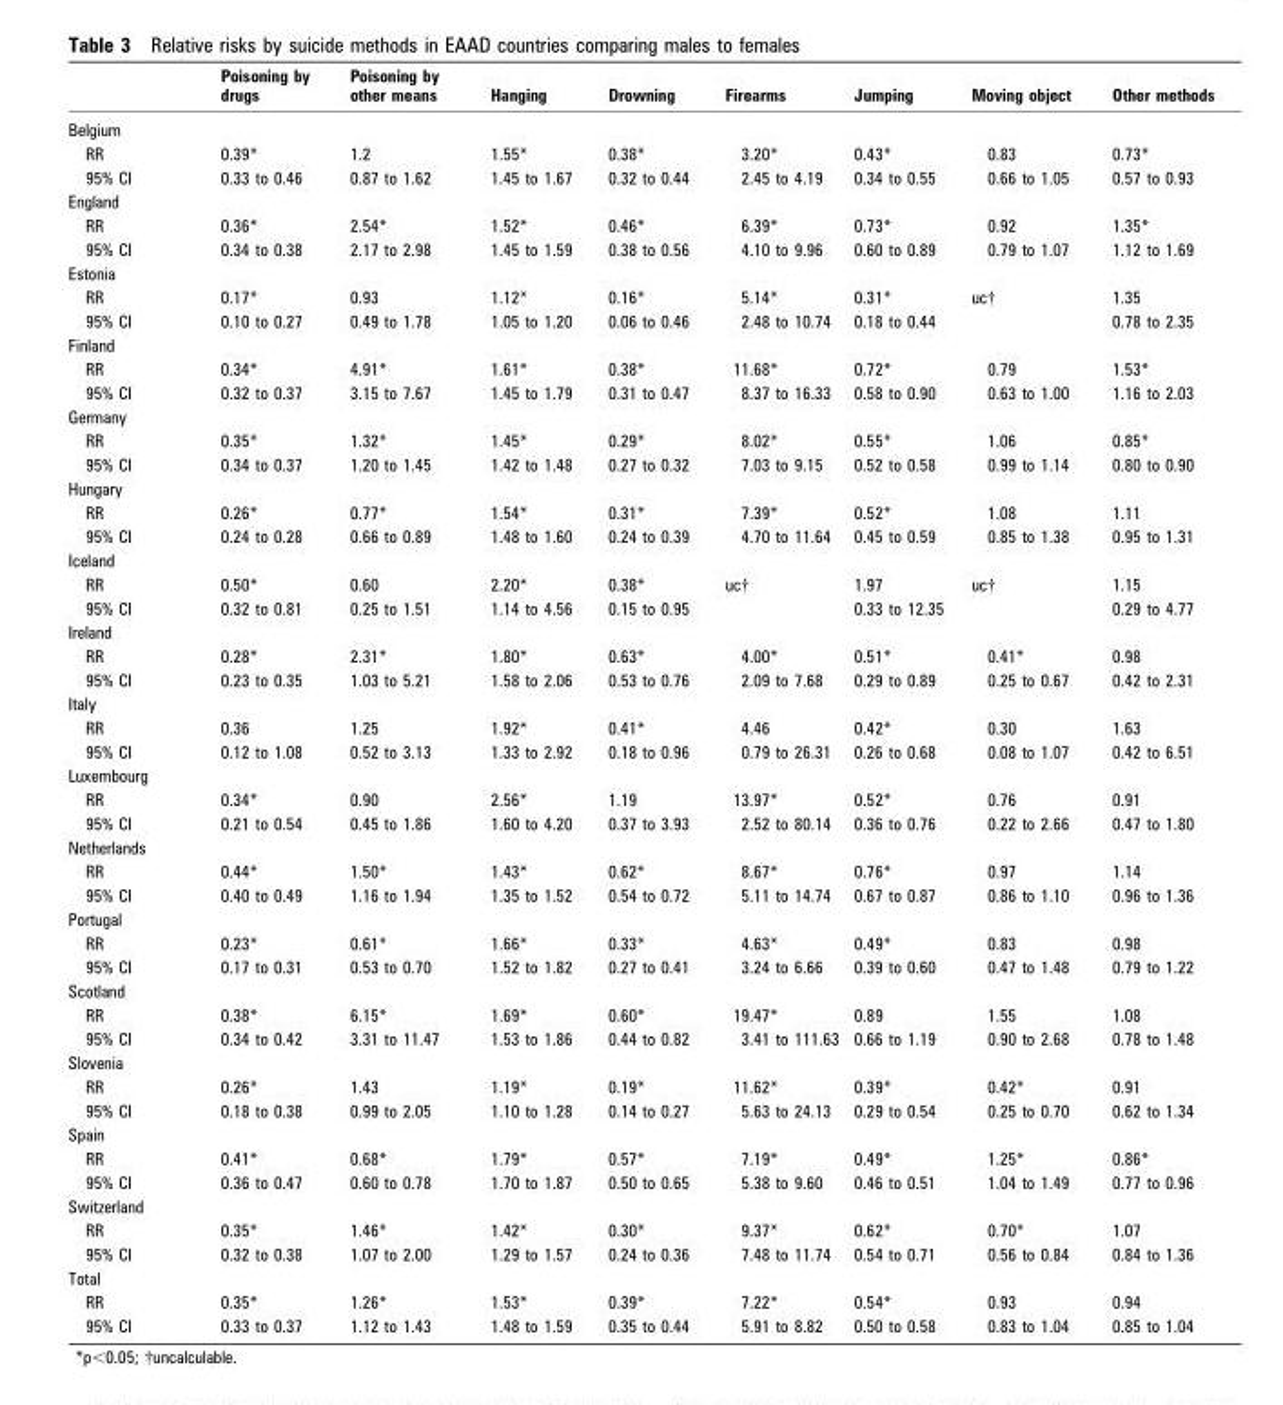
<table><thead><tr><td></td><td>Poisoning by drugs</td><td>Poisoning by other means</td><td>Hanging</td><td>Drowning</td><td>Firearms</td><td>Jumping</td><td>Moving object</td><td>Other methods</td></tr></thead><tbody><tr><td colspan="9">Belgium</td></tr><tr><td>RR</td><td>0.39*</td><td>1.2</td><td>1.55*</td><td>0.38*</td><td>3.20*</td><td>0.43*</td><td>0.83</td><td>0.73*</td></tr><tr><td>95% CI</td><td>0.33 to 0.46</td><td>0.87 to 1.62</td><td>1.45 to 1.67</td><td>0.32 to 0.44</td><td>2.45 to 4.19</td><td>0.34 to 0.55</td><td>0.66 to 1.05</td><td>0.57 to 0.93</td></tr><tr><td colspan="9">England</td></tr><tr><td>RR</td><td>0.36*</td><td>2.54*</td><td>1.52*</td><td>0.46*</td><td>6.39*</td><td>0.73*</td><td>0.92</td><td>1.35*</td></tr><tr><td>95% CI</td><td>0.34 to 0.38</td><td>2.17 to 2.98</td><td>1.45 to 1.59</td><td>0.38 to 0.56</td><td>4.10 to 9.96</td><td>0.60 to 0.89</td><td>0.79 to 1.07</td><td>1.12 to 1.69</td></tr><tr><td colspan="9">Estonia</td></tr><tr><td>RR</td><td>0.17*</td><td>0.93</td><td>1.12*</td><td>0.16*</td><td>5.14*</td><td>0.31*</td><td>uc†</td><td>1.35</td></tr><tr><td>95% CI</td><td>0.10 to 0.27</td><td>0.49 to 1.78</td><td>1.05 to 1.20</td><td>0.06 to 0.46</td><td>2.48 to 10.74</td><td>0.18 to 0.44</td><td></td><td>0.78 to 2.35</td></tr><tr><td colspan="9">Finland</td></tr><tr><td>RR</td><td>0.34*</td><td>4.91*</td><td>1.61*</td><td>0.38*</td><td>11.68*</td><td>0.72*</td><td>0.79</td><td>1.53*</td></tr><tr><td>95% CI</td><td>0.32 to 0.37</td><td>3.15 to 7.67</td><td>1.45 to 1.79</td><td>0.31 to 0.47</td><td>8.37 to 16.33</td><td>0.58 to 0.90</td><td>0.63 to 1.00</td><td>1.16 to 2.03</td></tr><tr><td colspan="9">Germany</td></tr><tr><td>RR</td><td>0.35*</td><td>1.32*</td><td>1.45*</td><td>0.29*</td><td>8.02*</td><td>0.55*</td><td>1.06</td><td>0.85*</td></tr><tr><td>95% CI</td><td>0.34 to 0.37</td><td>1.20 to 1.45</td><td>1.42 to 1.48</td><td>0.27 to 0.32</td><td>7.03 to 9.15</td><td>0.52 to 0.58</td><td>0.99 to 1.14</td><td>0.80 to 0.90</td></tr><tr><td colspan="9">Hungary</td></tr><tr><td>RR</td><td>0.26*</td><td>0.77*</td><td>1.54*</td><td>0.31*</td><td>7.39*</td><td>0.52*</td><td>1.08</td><td>1.11</td></tr><tr><td>95% CI</td><td>0.24 to 0.28</td><td>0.66 to 0.89</td><td>1.48 to 1.60</td><td>0.24 to 0.39</td><td>4.70 to 11.64</td><td>0.45 to 0.59</td><td>0.85 to 1.38</td><td>0.95 to 1.31</td></tr><tr><td colspan="9">Iceland</td></tr><tr><td>RR</td><td>0.50*</td><td>0.60</td><td>2.20*</td><td>0.38*</td><td>uc†</td><td>1.97</td><td>uc†</td><td>1.15</td></tr><tr><td>95% CI</td><td>0.32 to 0.81</td><td>0.25 to 1.51</td><td>1.14 to 4.56</td><td>0.15 to 0.95</td><td></td><td>0.33 to 12.35</td><td></td><td>0.29 to 4.77</td></tr><tr><td colspan="9">Ireland</td></tr><tr><td>RR</td><td>0.28*</td><td>2.31*</td><td>1.80*</td><td>0.63*</td><td>4.00*</td><td>0.51*</td><td>0.41*</td><td>0.98</td></tr><tr><td>95% CI</td><td>0.23 to 0.35</td><td>1.03 to 5.21</td><td>1.58 to 2.06</td><td>0.53 to 0.76</td><td>2.09 to 7.68</td><td>0.29 to 0.89</td><td>0.25 to 0.67</td><td>0.42 to 2.31</td></tr><tr><td colspan="9">Italy</td></tr><tr><td>RR</td><td>0.36</td><td>1.25</td><td>1.92*</td><td>0.41*</td><td>4.46</td><td>0.42*</td><td>0.30</td><td>1.63</td></tr><tr><td>95% CI</td><td>0.12 to 1.08</td><td>0.52 to 3.13</td><td>1.33 to 2.92</td><td>0.18 to 0.96</td><td>0.79 to 26.31</td><td>0.26 to 0.68</td><td>0.08 to 1.07</td><td>0.42 to 6.51</td></tr><tr><td colspan="9">Luxembourg</td></tr><tr><td>RR</td><td>0.34*</td><td>0.90</td><td>2.56*</td><td>1.19</td><td>13.97*</td><td>0.52*</td><td>0.76</td><td>0.91</td></tr><tr><td>95% CI</td><td>0.21 to 0.54</td><td>0.45 to 1.86</td><td>1.60 to 4.20</td><td>0.37 to 3.93</td><td>2.52 to 80.14</td><td>0.36 to 0.76</td><td>0.22 to 2.66</td><td>0.47 to 1.80</td></tr><tr><td colspan="9">Netherlands</td></tr><tr><td>RR</td><td>0.44*</td><td>1.50*</td><td>1.43*</td><td>0.62*</td><td>8.67*</td><td>0.76*</td><td>0.97</td><td>1.14</td></tr><tr><td>95% CI</td><td>0.40 to 0.49</td><td>1.16 to 1.94</td><td>1.35 to 1.52</td><td>0.54 to 0.72</td><td>5.11 to 14.74</td><td>0.67 to 0.87</td><td>0.86 to 1.10</td><td>0.96 to 1.36</td></tr><tr><td colspan="9">Portugal</td></tr><tr><td>RR</td><td>0.23*</td><td>0.61*</td><td>1.66*</td><td>0.33*</td><td>4.63*</td><td>0.49*</td><td>0.83</td><td>0.98</td></tr><tr><td>95% CI</td><td>0.17 to 0.31</td><td>0.53 to 0.70</td><td>1.52 to 1.82</td><td>0.27 to 0.41</td><td>3.24 to 6.66</td><td>0.39 to 0.60</td><td>0.47 to 1.48</td><td>0.79 to 1.22</td></tr><tr><td colspan="9">Scotland</td></tr><tr><td>RR</td><td>0.38*</td><td>6.15*</td><td>1.69*</td><td>0.60*</td><td>19.47*</td><td>0.89</td><td>1.55</td><td>1.08</td></tr><tr><td>95% CI</td><td>0.34 to 0.42</td><td>3.31 to 11.47</td><td>1.53 to 1.86</td><td>0.44 to 0.82</td><td>3.41 to 111.63</td><td>0.66 to 1.19</td><td>0.90 to 2.68</td><td>0.78 to 1.48</td></tr><tr><td colspan="9">Slovenia</td></tr><tr><td>RR</td><td>0.26*</td><td>1.43</td><td>1.19*</td><td>0.19*</td><td>11.62*</td><td>0.39*</td><td>0.42*</td><td>0.91</td></tr><tr><td>95% CI</td><td>0.18 to 0.38</td><td>0.99 to 2.05</td><td>1.10 to 1.28</td><td>0.14 to 0.27</td><td>5.63 to 24.13</td><td>0.29 to 0.54</td><td>0.25 to 0.70</td><td>0.62 to 1.34</td></tr><tr><td colspan="9">Spain</td></tr><tr><td>RR</td><td>0.41*</td><td>0.68*</td><td>1.79*</td><td>0.57*</td><td>7.19*</td><td>0.49*</td><td>1.25*</td><td>0.86*</td></tr><tr><td>95% CI</td><td>0.36 to 0.47</td><td>0.60 to 0.78</td><td>1.70 to 1.87</td><td>0.50 to 0.65</td><td>5.38 to 9.60</td><td>0.46 to 0.51</td><td>1.04 to 1.49</td><td>0.77 to 0.96</td></tr><tr><td colspan="9">Switzerland</td></tr><tr><td>RR</td><td>0.35*</td><td>1.46*</td><td>1.42*</td><td>0.30*</td><td>9.37*</td><td>0.62*</td><td>0.70*</td><td>1.07</td></tr><tr><td>95% CI</td><td>0.32 to 0.38</td><td>1.07 to 2.00</td><td>1.29 to 1.57</td><td>0.24 to 0.36</td><td>7.48 to 11.74</td><td>0.54 to 0.71</td><td>0.56 to 0.84</td><td>0.84 to 1.36</td></tr><tr><td colspan="9">Total</td></tr><tr><td>RR</td><td>0.35*</td><td>1.26*</td><td>1.53*</td><td>0.39*</td><td>7.22*</td><td>0.54*</td><td>0.93</td><td>0.94</td></tr><tr><td>95% CI</td><td>0.33 to 0.37</td><td>1.12 to 1.43</td><td>1.48 to 1.59</td><td>0.35 to 0.44</td><td>5.91 to 8.82</td><td>0.50 to 0.58</td><td>0.83 to 1.04</td><td>0.85 to 1.04</td></tr></tbody></table>